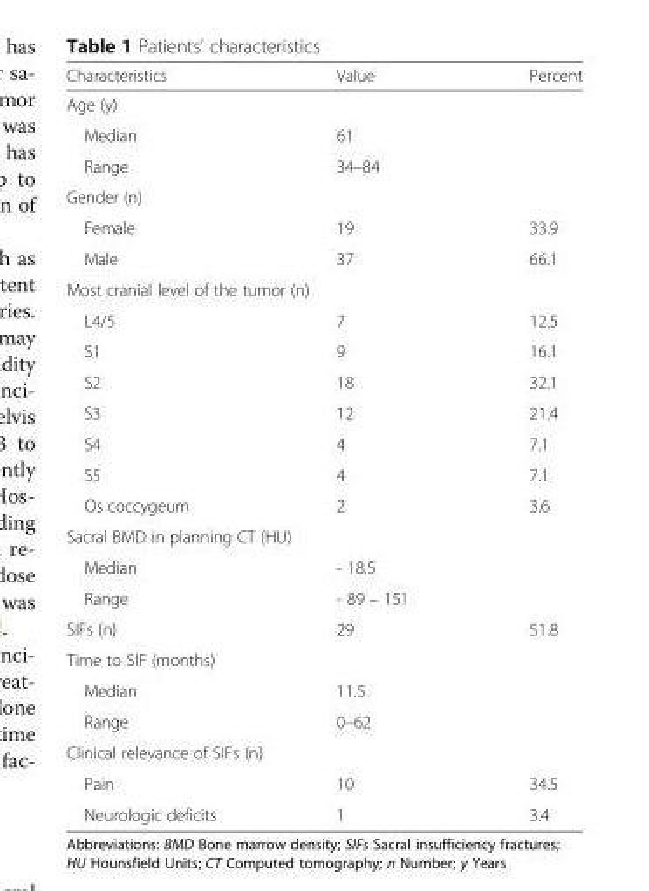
<table><thead><tr><td>Characteristics</td><td>Value</td><td>Percent</td></tr></thead><tbody><tr><td colspan="3">Age (y)</td></tr><tr><td>Median</td><td>61</td><td></td></tr><tr><td>Range</td><td>34–84</td><td></td></tr><tr><td colspan="3">Gender (n)</td></tr><tr><td>Female</td><td>19</td><td>33.9</td></tr><tr><td>Male</td><td>37</td><td>66.1</td></tr><tr><td colspan="3">Most cranial level of the tumor (n)</td></tr><tr><td>L4/5</td><td>7</td><td>12.5</td></tr><tr><td>S1</td><td>9</td><td>16.1</td></tr><tr><td>S2</td><td>18</td><td>32.1</td></tr><tr><td>S3</td><td>12</td><td>21.4</td></tr><tr><td>S4</td><td>4</td><td>7.1</td></tr><tr><td>S5</td><td>4</td><td>7.1</td></tr><tr><td>Os coccygeum</td><td>2</td><td>3.6</td></tr><tr><td colspan="3">Sacral BMD in planning CT (HU)</td></tr><tr><td>Median</td><td>- 18.5</td><td></td></tr><tr><td>Range</td><td>- 89 – 151</td><td></td></tr><tr><td>SIFs (n)</td><td>29</td><td>51.8</td></tr><tr><td colspan="3">Time to SIF (months)</td></tr><tr><td>Median</td><td>11.5</td><td></td></tr><tr><td>Range</td><td>0–62</td><td></td></tr><tr><td colspan="3">Clinical relevance of SIFs (n)</td></tr><tr><td>Pain</td><td>10</td><td>34.5</td></tr><tr><td>Neurologic deficits</td><td>1</td><td>3.4</td></tr></tbody></table>